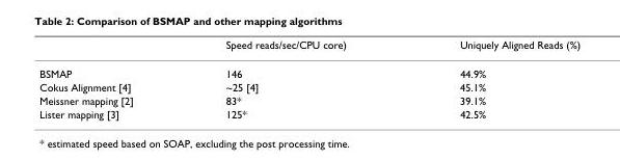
<table><thead><tr><td></td><td>Speed reads/sec/CPU core)</td><td>Uniquely Aligned Reads (%)</td></tr></thead><tbody><tr><td>BSMAP</td><td>146</td><td>44.9%</td></tr><tr><td>Cokus Alignment [4]</td><td>~25 [4]</td><td>45.1%</td></tr><tr><td>Meissner mapping [2]</td><td>83*</td><td>39.1%</td></tr><tr><td>Lister mapping [3]</td><td>125*</td><td>42.5%</td></tr></tbody></table>